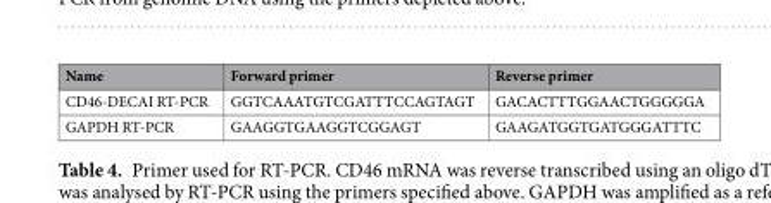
<table><thead><tr><td>Name</td><td>Forward primer</td><td>Reverse primer</td></tr></thead><tbody><tr><td>CD46-DECAI RT-PCR</td><td>GGTCAAATGTCGATTTCCAGTAGT</td><td>GACACTTTGGAACTGGGGGA</td></tr><tr><td>GAPDH RT-PCR</td><td>GAAGGTGAAGGTCGGAGT</td><td>GAAGATGGTGATGGGATTTC</td></tr></tbody></table>